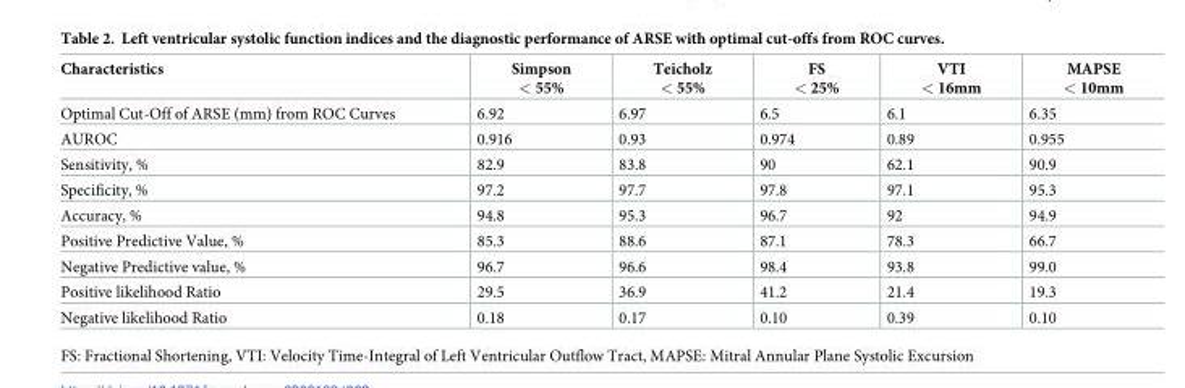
<table><thead><tr><td>Characteristics</td><td>Simpson &lt; 55%</td><td>Teicholz &lt; 55%</td><td>FS &lt; 25%</td><td>VTI &lt; 16mm</td><td>MAPSE &lt; 10mm</td></tr></thead><tbody><tr><td>Optimal Cut-Off of ARSE (mm) from ROC Curves</td><td>6.92</td><td>6.97</td><td>6.5</td><td>6.1</td><td>6.35</td></tr><tr><td>AUROC</td><td>0.916</td><td>0.93</td><td>0.974</td><td>0.89</td><td>0.955</td></tr><tr><td>Sensitivity, %</td><td>82.9</td><td>83.8</td><td>90</td><td>62.1</td><td>90.9</td></tr><tr><td>Specificity, %</td><td>97.2</td><td>97.7</td><td>97.8</td><td>97.1</td><td>95.3</td></tr><tr><td>Accuracy, %</td><td>94.8</td><td>95.3</td><td>96.7</td><td>92</td><td>94.9</td></tr><tr><td>Positive Predictive Value, %</td><td>85.3</td><td>88.6</td><td>87.1</td><td>78.3</td><td>66.7</td></tr><tr><td>Negative Predictive value, %</td><td>96.7</td><td>96.6</td><td>98.4</td><td>93.8</td><td>99.0</td></tr><tr><td>Positive likelihood Ratio</td><td>29.5</td><td>36.9</td><td>41.2</td><td>21.4</td><td>19.3</td></tr><tr><td>Negative likelihood Ratio</td><td>0.18</td><td>0.17</td><td>0.10</td><td>0.39</td><td>0.10</td></tr></tbody></table>